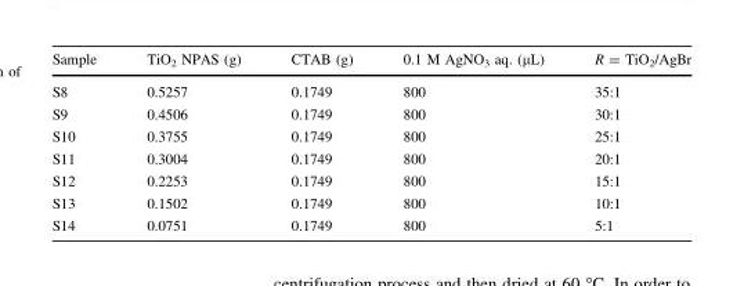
<table><thead><tr><td>Sample</td><td>TiO<sub>2</sub> NPAS (g)</td><td>CTAB (g)</td><td>0.1 M AgNO<sub>3</sub> aq. (µL)</td><td>R = TiO<sub>2</sub>/AgBr</td></tr></thead><tbody><tr><td>S8</td><td>0.5257</td><td>0.1749</td><td>800</td><td>35:1</td></tr><tr><td>S9</td><td>0.4506</td><td>0.1749</td><td>800</td><td>30:1</td></tr><tr><td>S10</td><td>0.3755</td><td>0.1749</td><td>800</td><td>25:1</td></tr><tr><td>S11</td><td>0.3004</td><td>0.1749</td><td>800</td><td>20:1</td></tr><tr><td>S12</td><td>0.2253</td><td>0.1749</td><td>800</td><td>15:1</td></tr><tr><td>S13</td><td>0.1502</td><td>0.1749</td><td>800</td><td>10:1</td></tr><tr><td>S14</td><td>0.0751</td><td>0.1749</td><td>800</td><td>5:1</td></tr></tbody></table>